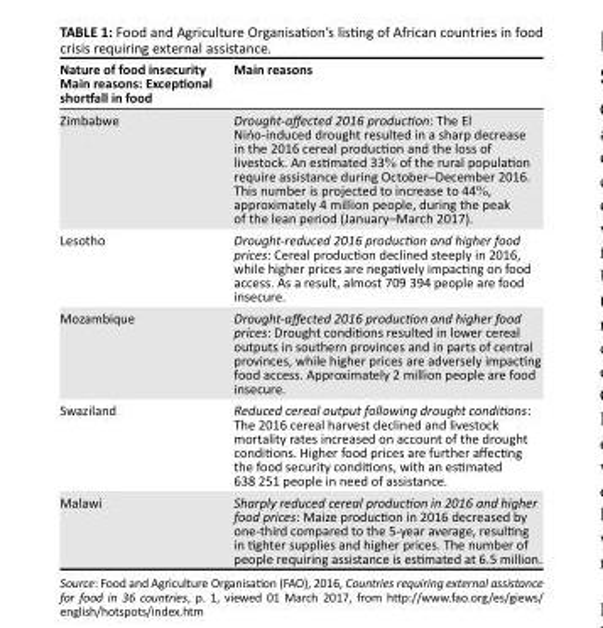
<table><thead><tr><td>Nature of food insecurity Main reasons: Exceptional shortfall in food</td><td>Main reasons</td></tr></thead><tbody><tr><td>Zimbabwe</td><td>Drought-affected 2016 production: The El Nińo-induced drought resulted in a sharp decrease in the 2016 cereal production and the loss of livestock. An estimated 33% of the rural population require assistance during October–December 2016. This number is projected to increase to 44%, approximately 4 million people, during the peak of the lean period (January–March 2017).</td></tr><tr><td>Lesotho</td><td>Drought-reduced 2016 production and higher food prices: Cereal production declined steeply in 2016, while higher prices are negatively impacting on food access. As a result, almost 709 394 people are food insecure.</td></tr><tr><td>Mozambique</td><td>Drought-affected 2016 production and higher food prices: Drought conditions resulted in lower cereal outputs in southern provinces and in parts of central provinces, while higher prices are adversely impacting food access. Approximately 2 million people are food insecure.</td></tr><tr><td>Swaziland</td><td>Reduced cereal output following drought conditions: The 2016 cereal harvest declined and livestock mortality rates increased on account of the drought conditions. Higher food prices are further affecting the food security conditions, with an estimated 638 251 people in need of assistance.</td></tr><tr><td>Malawi</td><td>Sharply reduced cereal production in 2016 and higher food prices: Maize production in 2016 decreased by one-third compared to the 5-year average, resulting in tighter supplies and higher prices. The number of people requiring assistance is estimated at 6.5 million.</td></tr></tbody></table>